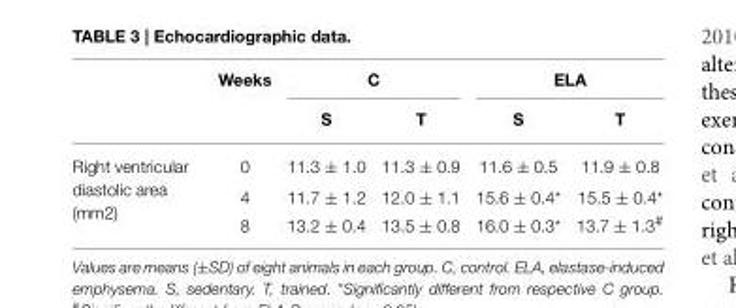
<table><thead><tr><td rowspan="2"></td><td rowspan="2">Weeks</td><td colspan="2">C</td><td colspan="2">ELA</td></tr><tr><td>S</td><td>T</td><td>S</td><td>T</td></tr></thead><tbody><tr><td rowspan="3">Right ventricular diastolic area (mm2)</td><td>0</td><td>11.3 ± 1.0</td><td>11.3 ± 0.9</td><td>11.6 ± 0.5</td><td>11.9 ± 0.8</td></tr><tr><td>4</td><td>11.7 ± 1.2</td><td>12.0 ± 1.1</td><td>15.6 ± 0.4*</td><td>15.5 ± 0.4*</td></tr><tr><td>8</td><td>13.2 ± 0.4</td><td>13.5 ± 0.8</td><td>16.0 ± 0.3*</td><td>13.7 ± 1.3<sup>#</sup></td></tr></tbody></table>